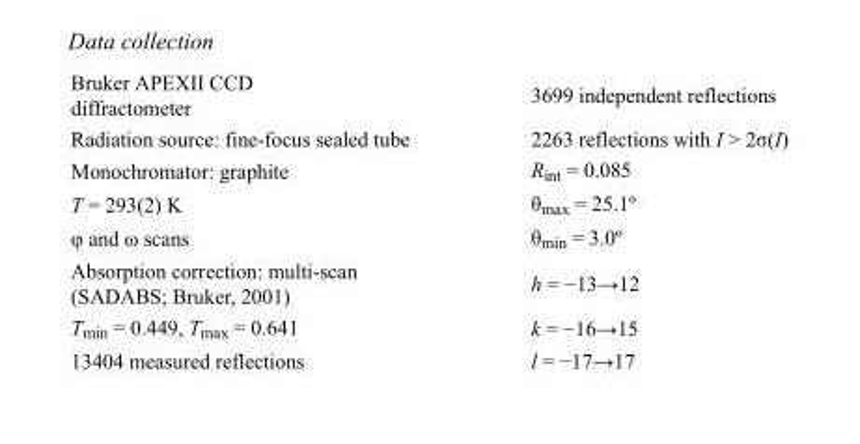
<table><tbody><tr><td>Bruker APEXII CCD diffractometer</td><td>3699 independent reflections</td></tr><tr><td>Radiation source: fine-focus sealed tube</td><td>2263 reflections with I &gt; 2σ(I)</td></tr><tr><td>Monochromator: graphite</td><td>Rint = 0.085</td></tr><tr><td>T = 293(2) K</td><td>θmax = 25.1º</td></tr><tr><td>φ and ω scans</td><td>θmin = 3.0º</td></tr><tr><td>Absorption correction: multi-scan (SADABS; Bruker, 2001)</td><td>h = −13→12</td></tr><tr><td>Tmin = 0.449, Tmax = 0.641</td><td>k = −16→15</td></tr><tr><td>13404 measured reflections</td><td>l = −17→17</td></tr></tbody></table>